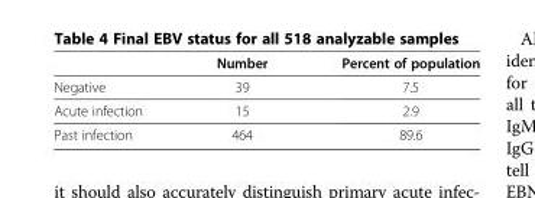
<table><thead><tr><td></td><td>Number</td><td>Percent of population</td></tr></thead><tbody><tr><td>Negative</td><td>39</td><td>7.5</td></tr><tr><td>Acute infection</td><td>15</td><td>2.9</td></tr><tr><td>Past infection</td><td>464</td><td>89.6</td></tr></tbody></table>